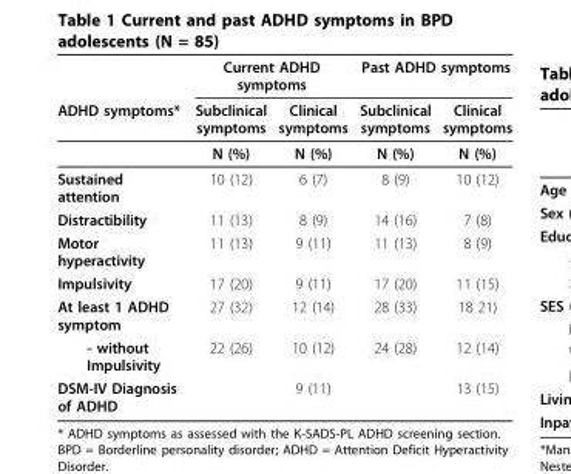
<table><thead><tr><td rowspan="2">ADHD symptoms*</td><td colspan="2">Current ADHD symptoms</td><td colspan="2">Past ADHD symptoms</td></tr><tr><td>Subclinical symptoms</td><td>Clinical symptoms</td><td>Subclinical symptoms</td><td>Clinical symptoms</td></tr></thead><tbody><tr><td></td><td>N (%)</td><td>N (%)</td><td>N (%)</td><td>N (%)</td></tr><tr><td>Sustained attention</td><td>10 (12)</td><td>6 (7)</td><td>8 (9)</td><td>10 (12)</td></tr><tr><td>Distractibility</td><td>11 (13)</td><td>8 (9)</td><td>14 (16)</td><td>7 (8)</td></tr><tr><td>Motor hyperactivity</td><td>11 (13)</td><td>9 (11)</td><td>11 (13)</td><td>8 (9)</td></tr><tr><td>Impulsivity</td><td>17 (20)</td><td>9 (11)</td><td>17 (20)</td><td>11 (15)</td></tr><tr><td>At least 1 ADHD symptom</td><td>27 (32)</td><td>12 (14)</td><td>28 (33)</td><td>18 21)</td></tr><tr><td>- without Impulsivity</td><td>22 (26)</td><td>10 (12)</td><td>24 (28)</td><td>12 (14)</td></tr><tr><td>DSM-IV Diagnosis of ADHD</td><td></td><td>9 (11)</td><td></td><td>13 (15)</td></tr></tbody></table>